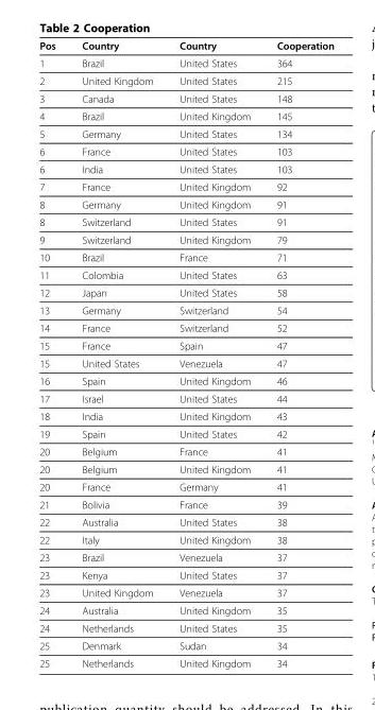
<table><thead><tr><td>Pos</td><td>Country</td><td>Country</td><td>Cooperation</td></tr></thead><tbody><tr><td>1</td><td>Brazil</td><td>United States</td><td>364</td></tr><tr><td>2</td><td>United Kingdom</td><td>United States</td><td>215</td></tr><tr><td>3</td><td>Canada</td><td>United States</td><td>148</td></tr><tr><td>4</td><td>Brazil</td><td>United Kingdom</td><td>145</td></tr><tr><td>5</td><td>Germany</td><td>United States</td><td>134</td></tr><tr><td>6</td><td>France</td><td>United States</td><td>103</td></tr><tr><td>6</td><td>India</td><td>United States</td><td>103</td></tr><tr><td>7</td><td>France</td><td>United Kingdom</td><td>92</td></tr><tr><td>8</td><td>Germany</td><td>United Kingdom</td><td>91</td></tr><tr><td>8</td><td>Switzerland</td><td>United States</td><td>91</td></tr><tr><td>9</td><td>Switzerland</td><td>United Kingdom</td><td>79</td></tr><tr><td>10</td><td>Brazil</td><td>France</td><td>71</td></tr><tr><td>11</td><td>Colombia</td><td>United States</td><td>63</td></tr><tr><td>12</td><td>Japan</td><td>United States</td><td>58</td></tr><tr><td>13</td><td>Germany</td><td>Switzerland</td><td>54</td></tr><tr><td>14</td><td>France</td><td>Switzerland</td><td>52</td></tr><tr><td>15</td><td>France</td><td>Spain</td><td>47</td></tr><tr><td>15</td><td>United States</td><td>Venezuela</td><td>47</td></tr><tr><td>16</td><td>Spain</td><td>United Kingdom</td><td>46</td></tr><tr><td>17</td><td>Israel</td><td>United States</td><td>44</td></tr><tr><td>18</td><td>India</td><td>United Kingdom</td><td>43</td></tr><tr><td>19</td><td>Spain</td><td>United States</td><td>42</td></tr><tr><td>20</td><td>Belgium</td><td>France</td><td>41</td></tr><tr><td>20</td><td>Belgium</td><td>United Kingdom</td><td>41</td></tr><tr><td>20</td><td>France</td><td>Germany</td><td>41</td></tr><tr><td>21</td><td>Bolivia</td><td>France</td><td>39</td></tr><tr><td>22</td><td>Australia</td><td>United States</td><td>38</td></tr><tr><td>22</td><td>Italy</td><td>United Kingdom</td><td>38</td></tr><tr><td>23</td><td>Brazil</td><td>Venezuela</td><td>37</td></tr><tr><td>23</td><td>Kenya</td><td>United States</td><td>37</td></tr><tr><td>23</td><td>United Kingdom</td><td>Venezuela</td><td>37</td></tr><tr><td>24</td><td>Australia</td><td>United Kingdom</td><td>35</td></tr><tr><td>24</td><td>Netherlands</td><td>United States</td><td>35</td></tr><tr><td>25</td><td>Denmark</td><td>Sudan</td><td>34</td></tr><tr><td>25</td><td>Netherlands</td><td>United Kingdom</td><td>34</td></tr></tbody></table>